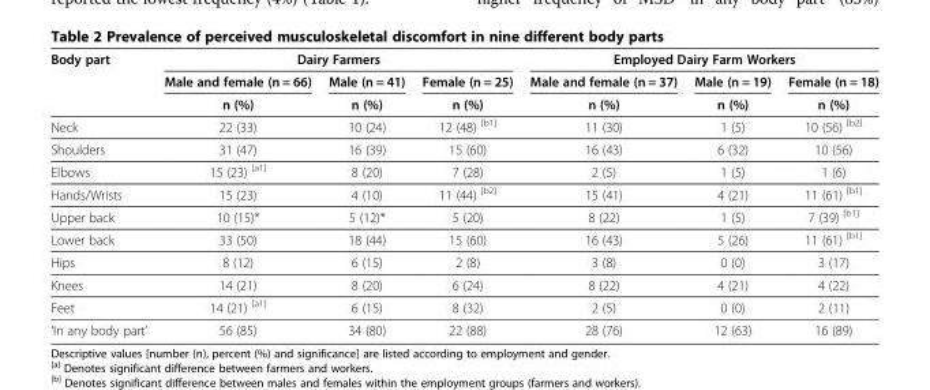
<table><thead><tr><td rowspan="3">Body part</td><td colspan="3">Dairy Farmers</td><td colspan="3">Employed Dairy Farm Workers</td></tr><tr><td rowspan="2">Male and female (n = 66) n (%)</td><td rowspan="2">Male (n = 41) n (%)</td><td rowspan="2">Female (n = 25) n (%)</td><td rowspan="2">Male and female (n = 37) n (%)</td><td rowspan="2">Male (n = 19) n (%)</td><td rowspan="2">Female (n = 18) n (%)</td></tr><tr></tr></thead><tbody><tr><td>Neck</td><td>22 (33)</td><td>10 (24)</td><td>12 (48) <sup>[b1]</sup></td><td>11 (30)</td><td>1 (5)</td><td>10 (56) <sup>[b2]</sup></td></tr><tr><td>Shoulders</td><td>31 (47)</td><td>16 (39)</td><td>15 (60)</td><td>16 (43)</td><td>6 (32)</td><td>10 (56)</td></tr><tr><td>Elbows</td><td>15 (23) <sup>[a1]</sup></td><td>8 (20)</td><td>7 (28)</td><td>2 (5)</td><td>1 (5)</td><td>1 (6)</td></tr><tr><td>Hands/Wrists</td><td>15 (23)</td><td>4 (10)</td><td>11 (44) <sup>[b2]</sup></td><td>15 (41)</td><td>4 (21)</td><td>11 (61) <sup>[b1]</sup></td></tr><tr><td>Upper back</td><td>10 (15)*</td><td>5 (12)*</td><td>5 (20)</td><td>8 (22)</td><td>1 (5)</td><td>7 (39) <sup>[b1]</sup></td></tr><tr><td>Lower back</td><td>33 (50)</td><td>18 (44)</td><td>15 (60)</td><td>16 (43)</td><td>5 (26)</td><td>11 (61) <sup>[b1]</sup></td></tr><tr><td>Hips</td><td>8 (12)</td><td>6 (15)</td><td>2 (8)</td><td>3 (8)</td><td>0 (0)</td><td>3 (17)</td></tr><tr><td>Knees</td><td>14 (21)</td><td>8 (20)</td><td>6 (24)</td><td>8 (22)</td><td>4 (21)</td><td>4 (22)</td></tr><tr><td>Feet</td><td>14 (21) <sup>[a1]</sup></td><td>6 (15)</td><td>8 (32)</td><td>2 (5)</td><td>0 (0)</td><td>2 (11)</td></tr><tr><td>‘In any body part’</td><td>56 (85)</td><td>34 (80)</td><td>22 (88)</td><td>28 (76)</td><td>12 (63)</td><td>16 (89)</td></tr></tbody></table>